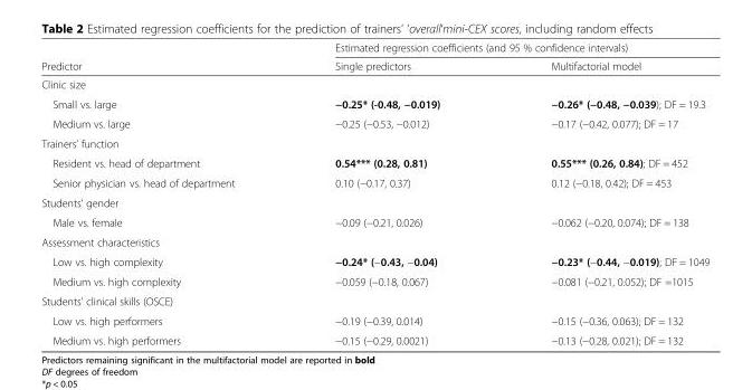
<table><thead><tr><td rowspan="2">Predictor</td><td colspan="2">Estimated regression coefficients (and 95 % confidence intervals)</td></tr><tr><td>Single predictors</td><td>Multifactorial model</td></tr></thead><tbody><tr><td colspan="3">Clinic size</td></tr><tr><td>Small vs. large</td><td>−0.25* (-0.48, −0.019)</td><td>−0.26* (−0.48, −0.039); DF = 19.3</td></tr><tr><td>Medium vs. large</td><td>−0.25 (−0.53, −0.012)</td><td>−0.17 (−0.42, 0.077); DF = 17</td></tr><tr><td colspan="3">Trainers’ function</td></tr><tr><td>Resident vs. head of department</td><td>0.54*** (0.28, 0.81)</td><td>0.55*** (0.26, 0.84); DF = 452</td></tr><tr><td>Senior physician vs. head of department</td><td>0.10 (−0.17, 0.37)</td><td>0.12 (−0.18, 0.42); DF = 453</td></tr><tr><td colspan="3">Students’ gender</td></tr><tr><td>Male vs. female</td><td>−0.09 (−0.21, 0.026)</td><td>−0.062 (−0.20, 0.074); DF = 138</td></tr><tr><td colspan="3">Assessment characteristics</td></tr><tr><td>Low vs. high complexity</td><td>−0.24* (−0.43, −0.04)</td><td>−0.23* (−0.44, −0.019); DF = 1049</td></tr><tr><td>Medium vs. high complexity</td><td>−0.059 (−0.18, 0.067)</td><td>−0.081 (−0.21, 0.052); DF =1015</td></tr><tr><td colspan="3">Students’ clinical skills (OSCE)</td></tr><tr><td>Low vs. high performers</td><td>−0.19 (−0.39, 0.014)</td><td>−0.15 (−0.36, 0.063); DF = 132</td></tr><tr><td>Medium vs. high performers</td><td>−0.15 (−0.29, 0.0021)</td><td>−0.13 (−0.28, 0.021); DF = 132</td></tr></tbody></table>